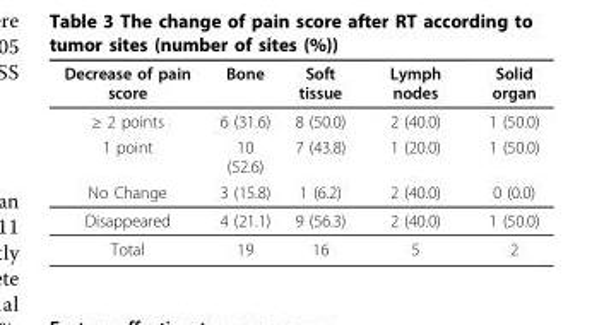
<table><thead><tr><td>Decrease of pain score</td><td>Bone</td><td>Soft tissue</td><td>Lymph nodes</td><td>Solid organ</td></tr></thead><tbody><tr><td>≥ 2 points</td><td>6 (31.6)</td><td>8 (50.0)</td><td>2 (40.0)</td><td>1 (50.0)</td></tr><tr><td>1 point</td><td>10 (52.6)</td><td>7 (43.8)</td><td>1 (20.0)</td><td>1 (50.0)</td></tr><tr><td>No Change</td><td>3 (15.8)</td><td>1 (6.2)</td><td>2 (40.0)</td><td>0 (0.0)</td></tr><tr><td>Disappeared</td><td>4 (21.1)</td><td>9 (56.3)</td><td>2 (40.0)</td><td>1 (50.0)</td></tr><tr><td>Total</td><td>19</td><td>16</td><td>5</td><td>2</td></tr></tbody></table>